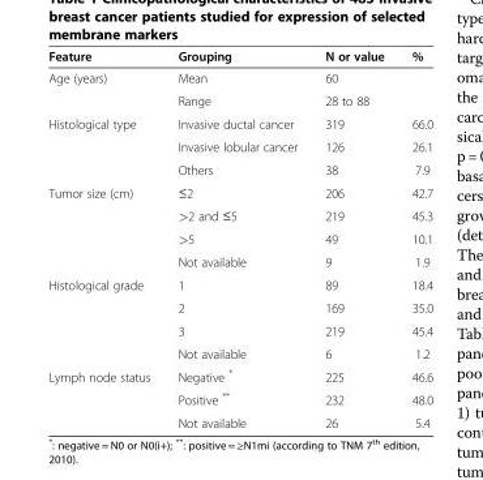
<table><thead><tr><td>Feature</td><td>Grouping</td><td>N or value</td><td>%</td></tr></thead><tbody><tr><td rowspan="2">Age (years)</td><td>Mean</td><td>60</td><td></td></tr><tr><td>Range</td><td>28 to 88</td><td></td></tr><tr><td rowspan="3">Histological type</td><td>Invasive ductal cancer</td><td>319</td><td>66.0</td></tr><tr><td>Invasive lobular cancer</td><td>126</td><td>26.1</td></tr><tr><td>Others</td><td>38</td><td>7.9</td></tr><tr><td rowspan="4">Tumor size (cm)</td><td>≤2</td><td>206</td><td>42.7</td></tr><tr><td>&gt;2 and ≤5</td><td>219</td><td>45.3</td></tr><tr><td>&gt;5</td><td>49</td><td>10.1</td></tr><tr><td>Not available</td><td>9</td><td>1.9</td></tr><tr><td rowspan="4">Histological grade</td><td>1</td><td>89</td><td>18.4</td></tr><tr><td>2</td><td>169</td><td>35.0</td></tr><tr><td>3</td><td>219</td><td>45.4</td></tr><tr><td>Not available</td><td>6</td><td>1.2</td></tr><tr><td rowspan="3">Lymph node status</td><td>Negative *</td><td>225</td><td>46.6</td></tr><tr><td>Positive **</td><td>232</td><td>48.0</td></tr><tr><td>Not available</td><td>26</td><td>5.4</td></tr></tbody></table>